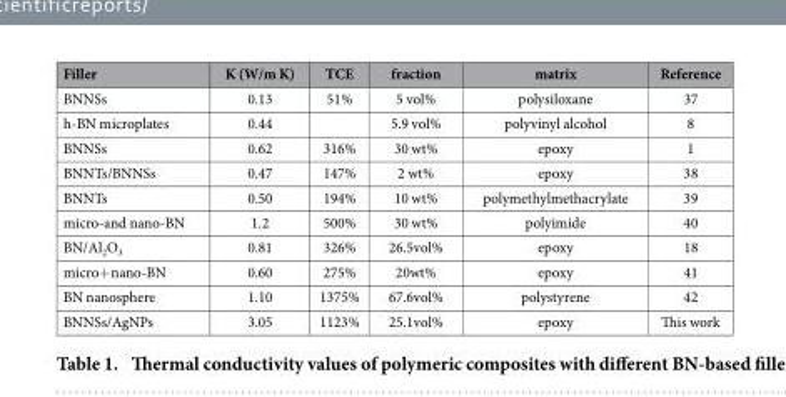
<table><thead><tr><td>Filler</td><td>K (W/m K)</td><td>TCE</td><td>fraction</td><td>matrix</td><td>Reference</td></tr></thead><tbody><tr><td>BNNSs</td><td>0.13</td><td>51%</td><td>5 vol%</td><td>polysiloxane</td><td>37</td></tr><tr><td>h-BN microplates</td><td>0.44</td><td></td><td>5.9 vol%</td><td>polyvinyl alcohol</td><td>8</td></tr><tr><td>BNNSs</td><td>0.62</td><td>316%</td><td>30 wt%</td><td>epoxy</td><td>1</td></tr><tr><td>BNNTs/BNNSs</td><td>0.47</td><td>147%</td><td>2 wt%</td><td>epoxy</td><td>38</td></tr><tr><td>BNNTs</td><td>0.50</td><td>194%</td><td>10 wt%</td><td>polymethylmethacrylate</td><td>39</td></tr><tr><td>micro-and nano-BN</td><td>1.2</td><td>500%</td><td>30 wt%</td><td>polyimide</td><td>40</td></tr><tr><td>BN/Al<sub>2</sub>O<sub>3</sub></td><td>0.81</td><td>326%</td><td>26.5vol%</td><td>epoxy</td><td>18</td></tr><tr><td>micro+ nano-BN</td><td>0.60</td><td>275%</td><td>20wt%</td><td>epoxy</td><td>41</td></tr><tr><td>BN nanosphere</td><td>1.10</td><td>1375%</td><td>67.6vol%</td><td>polystyrene</td><td>42</td></tr><tr><td>BNNSs/AgNPs</td><td>3.05</td><td>1123%</td><td>25.1vol%</td><td>epoxy</td><td>This work</td></tr></tbody></table>